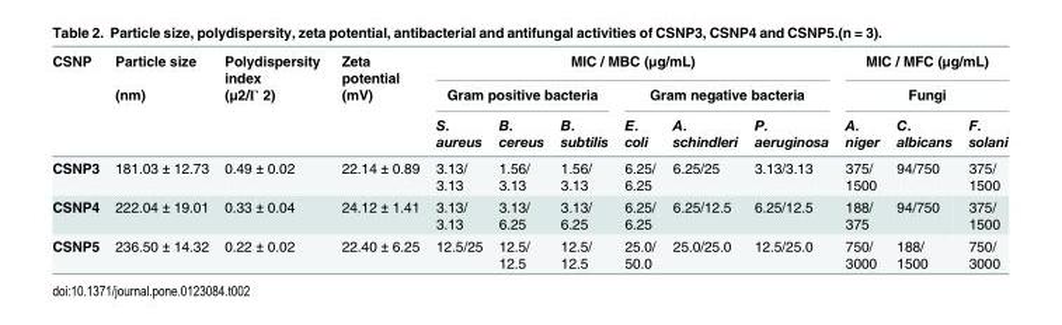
<table><thead><tr><td rowspan="3">CSNP</td><td rowspan="3">Particle size (nm)</td><td rowspan="3">Polydispersity index (μ2/Γ 2)</td><td rowspan="3">Zeta potential (mV)</td><td colspan="6">MIC / MBC (μg/mL)</td><td rowspan="2" colspan="3">MIC / MFC (μg/mL) Fungi</td></tr><tr><td colspan="3">Gram positive bacteria</td><td colspan="3">Gram negative bacteria</td></tr><tr><td>S. aureus</td><td>B. cereus</td><td>B. subtilis</td><td>E. coli</td><td>A. schindleri</td><td>P. aeruginosa</td><td>A. niger</td><td>C. albicans</td><td>F. solani</td></tr></thead><tbody><tr><td>CSNP3</td><td>181.03 ± 12.73</td><td>0.49 ± 0.02</td><td>22.14 ± 0.89</td><td>3.13/ 3.13</td><td>1.56/ 3.13</td><td>1.56/ 3.13</td><td>6.25/ 6.25</td><td>6.25/25</td><td>3.13/3.13</td><td>375/ 1500</td><td>94/750</td><td>375/ 1500</td></tr><tr><td>CSNP4</td><td>222.04 ± 19.01</td><td>0.33 ± 0.04</td><td>24.12 ± 1.41</td><td>3.13/ 3.13</td><td>3.13/ 6.25</td><td>3.13/ 6.25</td><td>6.25/ 6.25</td><td>6.25/12.5</td><td>6.25/12.5</td><td>188/ 375</td><td>94/750</td><td>375/ 1500</td></tr><tr><td>CSNP5</td><td>236.50 ± 14.32</td><td>0.22 ± 0.02</td><td>22.40 ± 6.25</td><td>12.5/25</td><td>12.5/ 12.5</td><td>12.5/ 12.5</td><td>25.0/ 50.0</td><td>25.0/25.0</td><td>12.5/25.0</td><td>750/ 3000</td><td>188/ 1500</td><td>750/ 3000</td></tr></tbody></table>